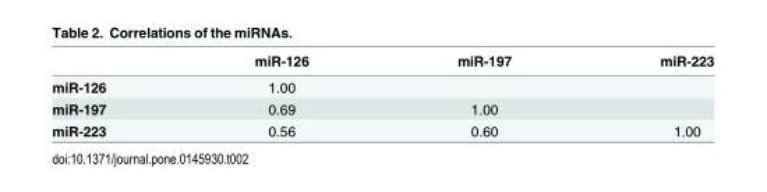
<table><thead><tr><td></td><td>miR-126</td><td>miR-197</td><td>miR-223</td></tr></thead><tbody><tr><td>miR-126</td><td>1.00</td><td></td><td></td></tr><tr><td>miR-197</td><td>0.69</td><td>1.00</td><td></td></tr><tr><td>miR-223</td><td>0.56</td><td>0.60</td><td>1.00</td></tr></tbody></table>